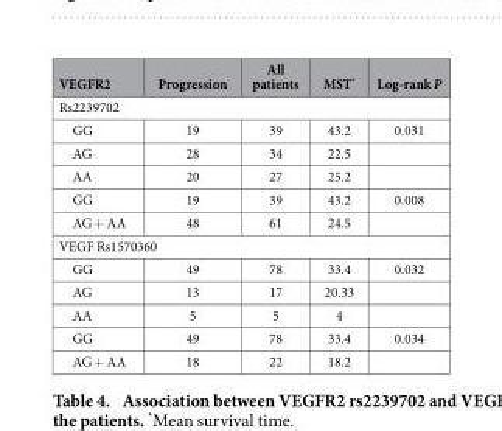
<table><thead><tr><td>VEGFR2</td><td>Progression</td><td>All patients</td><td>MST*</td><td>Log-rank P</td></tr></thead><tbody><tr><td colspan="5">Rs2239702</td></tr><tr><td>GG</td><td>19</td><td>39</td><td>43.2</td><td>0.031</td></tr><tr><td>AG</td><td>28</td><td>34</td><td>22.5</td><td></td></tr><tr><td>AA</td><td>20</td><td>27</td><td>25.2</td><td></td></tr><tr><td>GG</td><td>19</td><td>39</td><td>43.2</td><td>0.008</td></tr><tr><td>AG + AA</td><td>48</td><td>61</td><td>24.5</td><td></td></tr><tr><td colspan="5">VEGF Rs1570360</td></tr><tr><td>GG</td><td>49</td><td>78</td><td>33.4</td><td>0.032</td></tr><tr><td>AG</td><td>13</td><td>17</td><td>20.33</td><td></td></tr><tr><td>AA</td><td>5</td><td>5</td><td>4</td><td></td></tr><tr><td>GG</td><td>49</td><td>78</td><td>33.4</td><td>0.034</td></tr><tr><td>AG + AA</td><td>18</td><td>22</td><td>18.2</td><td></td></tr></tbody></table>